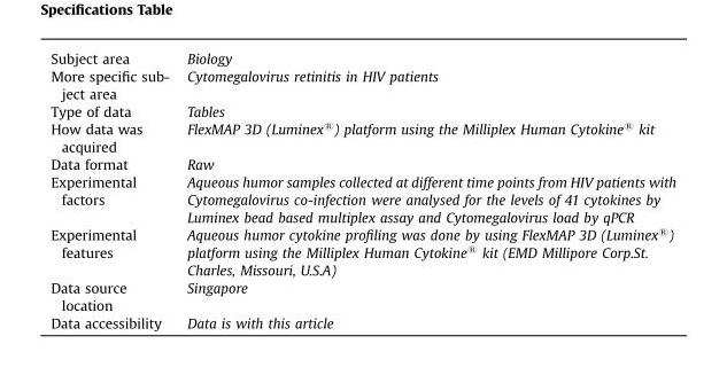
<table><tbody><tr><td>Subject area</td><td>Biology</td></tr><tr><td>More specific sub- ject area</td><td>Cytomegalovirus retinitis in HIV patients</td></tr><tr><td>Type of data</td><td>Tables</td></tr><tr><td>How data was acquired</td><td>FlexMAP 3D (Luminex®) platform using the Milliplex Human Cytokine® kit</td></tr><tr><td>Data format</td><td>Raw</td></tr><tr><td>Experimental factors</td><td>Aqueous humor samples collected at different time points from HIV patients with Cytomegalovirus co-infection were analysed for the levels of 41 cytokines by Luminex bead based multiplex assay and Cytomegalovirus load by qPCR</td></tr><tr><td>Experimental features</td><td>Aqueous humor cytokine profiling was done by using FlexMAP 3D (Luminex®) platform using the Milliplex Human Cytokine® kit (EMD Millipore Corp.St. Charles, Missouri, U.S.A)</td></tr><tr><td>Data source location</td><td>Singapore</td></tr><tr><td>Data accessibility</td><td>Data is with this article</td></tr></tbody></table>